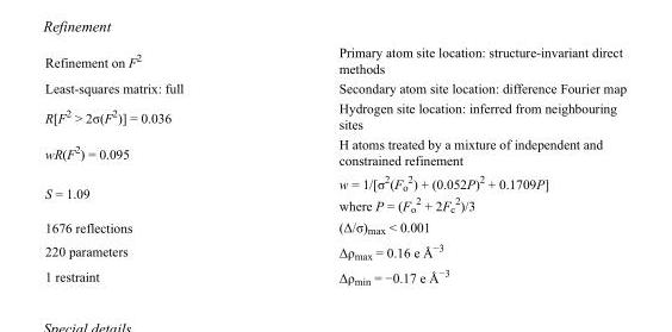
<table><tbody><tr><td>Refinement on F<sup>2</sup></td><td>Primary atom site location: structure-invariant direct methods</td></tr><tr><td>Least-squares matrix: full</td><td>Secondary atom site location: difference Fourier map</td></tr><tr><td>R[F<sup>2</sup> &gt; 2σ(F<sup>2</sup>)] = 0.036</td><td>Hydrogen site location: inferred from neighbouring sites</td></tr><tr><td>wR(F<sup>2</sup>) = 0.095</td><td>H atoms treated by a mixture of independent and constrained refinement</td></tr><tr><td>S = 1.09</td><td>w = 1/[σ<sup>2</sup>(F<sub>o</sub> <sup>2</sup>) + (0.052P)<sup>2</sup> + 0.1709P] where P = (F<sub>o</sub> <sup>2</sup> + 2F<sub>c</sub> <sup>2</sup>)/3</td></tr><tr><td>1676 reflections</td><td>(Δ/σ)<sub>max</sub> &lt; 0.001</td></tr><tr><td>220 parameters</td><td>Δρ<sub>max</sub> = 0.16 e Å<sup>−3</sup></td></tr><tr><td>1 restraint</td><td>Δρ<sub>min</sub> = −0.17 e Å<sup>−3</sup></td></tr></tbody></table>